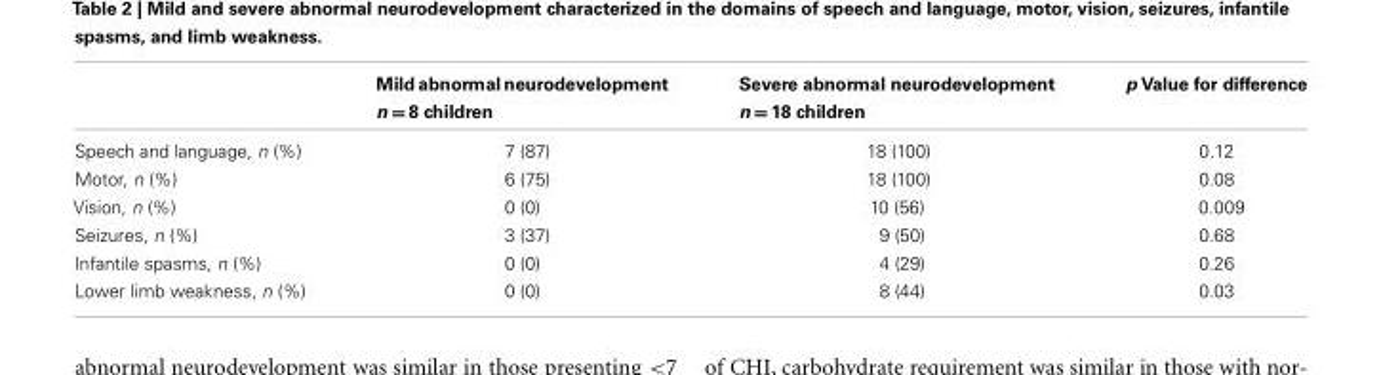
<table><thead><tr><td></td><td>Mild abnormal neurodevelopment n = 8 children</td><td>Severe abnormal neurodevelopment n = 18 children</td><td>p Value for difference</td></tr></thead><tbody><tr><td>Speech and language, n (%)</td><td>7 (87)</td><td>18 (100)</td><td>0.12</td></tr><tr><td>Motor, n (%)</td><td>6 (75)</td><td>18 (100)</td><td>0.08</td></tr><tr><td>Vision, n (%)</td><td>0 (0)</td><td>10 (56)</td><td>0.009</td></tr><tr><td>Seizures, n (%)</td><td>3 (37)</td><td>9 (50)</td><td>0.68</td></tr><tr><td>Infantile spasms, n (%)</td><td>0 (0)</td><td>4 (29)</td><td>0.26</td></tr><tr><td>Lower limb weakness, n (%)</td><td>0 (0)</td><td>8 (44)</td><td>0.03</td></tr></tbody></table>